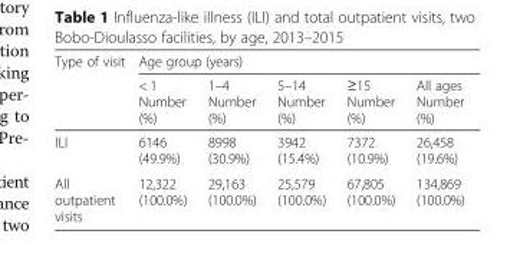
<table><thead><tr><td rowspan="2">Type of visit</td><td colspan="5">Age group (years)</td></tr><tr><td>&lt; 1 Number (%)</td><td>1–4 Number (%)</td><td>5–14 Number (%)</td><td>≥15 Number (%)</td><td>All ages Number (%)</td></tr></thead><tbody><tr><td>ILI</td><td>6146 (49.9%)</td><td>8998 (30.9%)</td><td>3942 (15.4%)</td><td>7372 (10.9%)</td><td>26,458 (19.6%)</td></tr><tr><td>All outpatient visits</td><td>12,322 (100.0%)</td><td>29,163 (100.0%)</td><td>25,579 (100.0%)</td><td>67,805 (100.0%)</td><td>134,869 (100.0%)</td></tr></tbody></table>